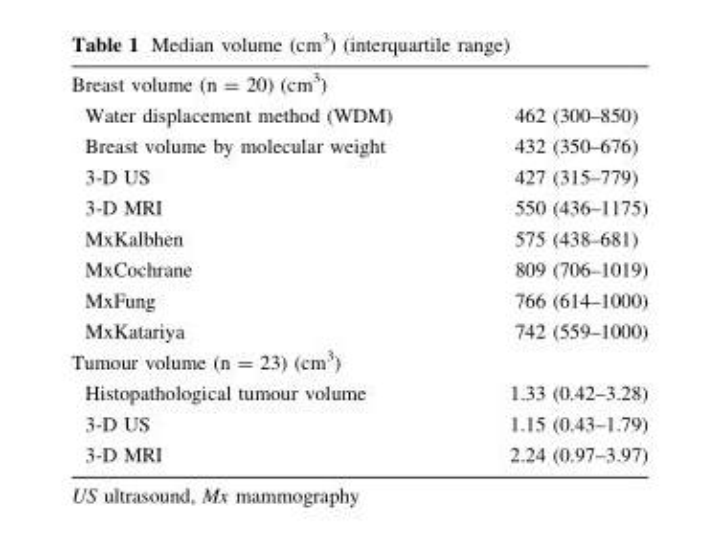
<table><tbody><tr><td colspan="2">Breast volume (n = 20) (cm<sup>3</sup>)</td></tr><tr><td>Water displacement method (WDM)</td><td>462 (300–850)</td></tr><tr><td>Breast volume by molecular weight</td><td>432 (350–676)</td></tr><tr><td>3-D US</td><td>427 (315–779)</td></tr><tr><td>3-D MRI</td><td>550 (436–1175)</td></tr><tr><td>MxKalbhen</td><td>575 (438–681)</td></tr><tr><td>MxCochrane</td><td>809 (706–1019)</td></tr><tr><td>MxFung</td><td>766 (614–1000)</td></tr><tr><td>MxKatariya</td><td>742 (559–1000)</td></tr><tr><td colspan="2">Tumour volume (n = 23) (cm<sup>3</sup>)</td></tr><tr><td>Histopathological tumour volume</td><td>1.33 (0.42–3.28)</td></tr><tr><td>3-D US</td><td>1.15 (0.43–1.79)</td></tr><tr><td>3-D MRI</td><td>2.24 (0.97–3.97)</td></tr></tbody></table>